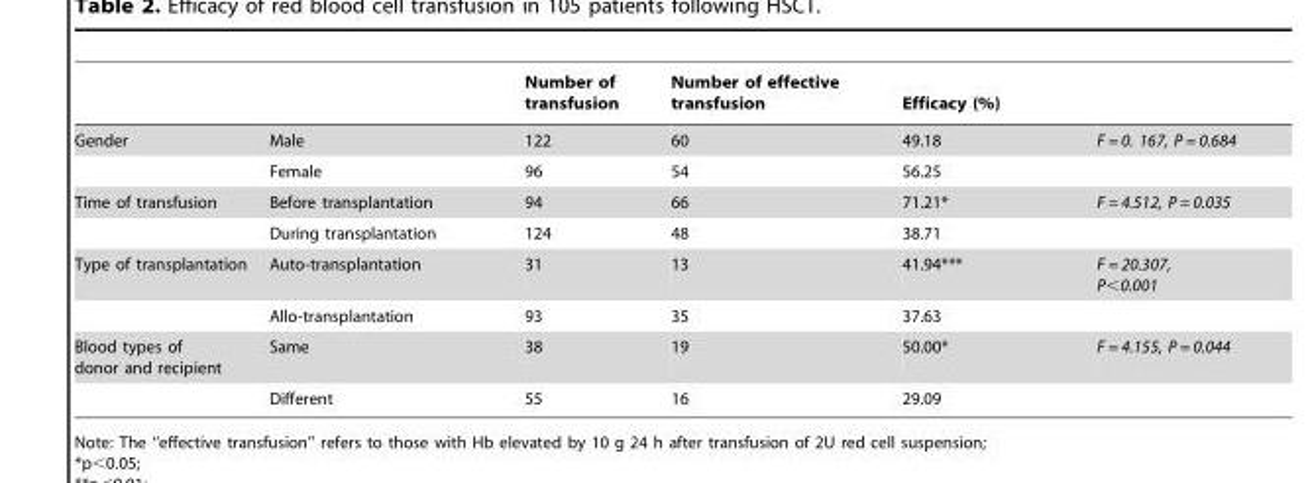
<table><thead><tr><td></td><td></td><td>Number of transfusion</td><td>Number of effective transfusion</td><td>Efficacy (%)</td><td></td></tr></thead><tbody><tr><td rowspan="2">Gender</td><td>Male</td><td>122</td><td>60</td><td>49.18</td><td>F = 0. 167, P = 0.684</td></tr><tr><td>Female</td><td>96</td><td>54</td><td>56.25</td><td></td></tr><tr><td rowspan="2">Time of transfusion</td><td>Before transplantation</td><td>94</td><td>66</td><td>71.21*</td><td>F = 4.512, P = 0.035</td></tr><tr><td>During transplantation</td><td>124</td><td>48</td><td>38.71</td><td></td></tr><tr><td rowspan="2">Type of transplantation</td><td>Auto-transplantation</td><td>31</td><td>13</td><td>41.94***</td><td>F = 20.307, P&lt;0.001</td></tr><tr><td>Allo-transplantation</td><td>93</td><td>35</td><td>37.63</td><td></td></tr><tr><td rowspan="2">Blood types of donor and recipient</td><td>Same</td><td>38</td><td>19</td><td>50.00*</td><td>F = 4.155, P = 0.044</td></tr><tr><td>Different</td><td>55</td><td>16</td><td>29.09</td><td></td></tr></tbody></table>